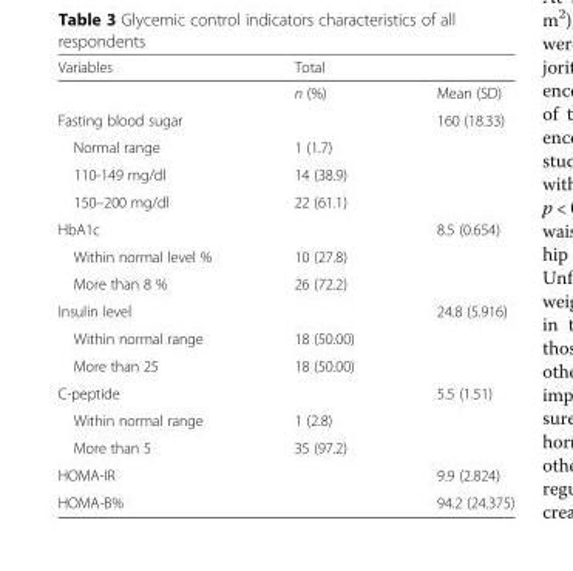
<table><thead><tr><td rowspan="2">Variables</td><td colspan="2">Total</td></tr><tr><td>n (%)</td><td>Mean (SD)</td></tr></thead><tbody><tr><td>Fasting blood sugar</td><td></td><td>160 (18.33)</td></tr><tr><td>Normal range</td><td>1 (1.7)</td><td></td></tr><tr><td>110-149 mg/dl</td><td>14 (38.9)</td><td></td></tr><tr><td>150–200 mg/dl</td><td>22 (61.1)</td><td></td></tr><tr><td>HbA1c</td><td></td><td>8.5 (0.654)</td></tr><tr><td>Within normal level %</td><td>10 (27.8)</td><td></td></tr><tr><td>More than 8 %</td><td>26 (72.2)</td><td></td></tr><tr><td>Insulin level</td><td></td><td>24.8 (5.916)</td></tr><tr><td>Within normal range</td><td>18 (50.00)</td><td></td></tr><tr><td>More than 25</td><td>18 (50.00)</td><td></td></tr><tr><td>C-peptide</td><td></td><td>5.5 (1.51)</td></tr><tr><td>Within normal range</td><td>1 (2.8)</td><td></td></tr><tr><td>More than 5</td><td>35 (97.2)</td><td></td></tr><tr><td>HOMA-IR</td><td></td><td>9.9 (2.824)</td></tr><tr><td>HOMA-B%</td><td></td><td>94.2 (24.375)</td></tr></tbody></table>